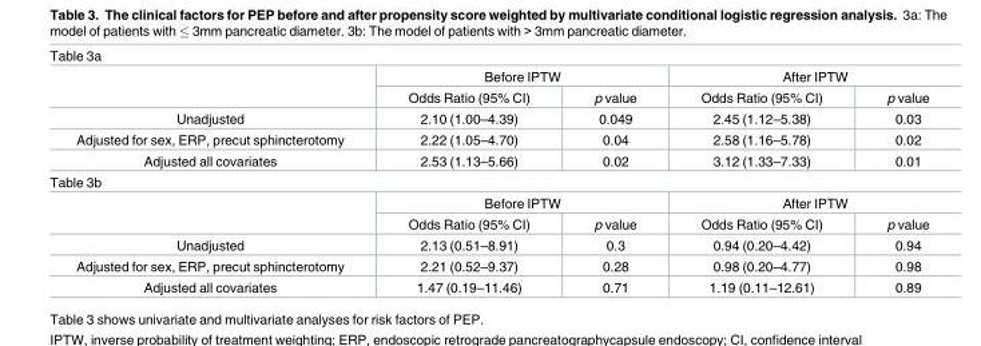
<table><tbody><tr><td colspan="5">Table 3a</td></tr><tr><td rowspan="2"></td><td colspan="2">Before IPTW</td><td colspan="2">After IPTW</td></tr><tr><td>Odds Ratio (95% CI)</td><td>p value</td><td>Odds Ratio (95% CI)</td><td>p value</td></tr><tr><td>Unadjusted</td><td>2.10 (1.00–4.39)</td><td>0.049</td><td>2.45 (1.12–5.38)</td><td>0.03</td></tr><tr><td>Adjusted for sex, ERP, precut sphincterotomy</td><td>2.22 (1.05–4.70)</td><td>0.04</td><td>2.58 (1.16–5.78)</td><td>0.02</td></tr><tr><td>Adjusted all covariates</td><td>2.53 (1.13–5.66)</td><td>0.02</td><td>3.12 (1.33–7.33)</td><td>0.01</td></tr><tr><td colspan="5">Table 3b</td></tr><tr><td rowspan="2"></td><td colspan="2">Before IPTW</td><td colspan="2">After IPTW</td></tr><tr><td>Odds Ratio (95% CI)</td><td>p value</td><td>Odds Ratio (95% CI)</td><td>p value</td></tr><tr><td>Unadjusted</td><td>2.13 (0.51–8.91)</td><td>0.3</td><td>0.94 (0.20–4.42)</td><td>0.94</td></tr><tr><td>Adjusted for sex, ERP, precut sphincterotomy</td><td>2.21 (0.52–9.37)</td><td>0.28</td><td>0.98 (0.20–4.77)</td><td>0.98</td></tr><tr><td>Adjusted all covariates</td><td>1.47 (0.19–11.46)</td><td>0.71</td><td>1.19 (0.11–12.61)</td><td>0.89</td></tr></tbody></table>